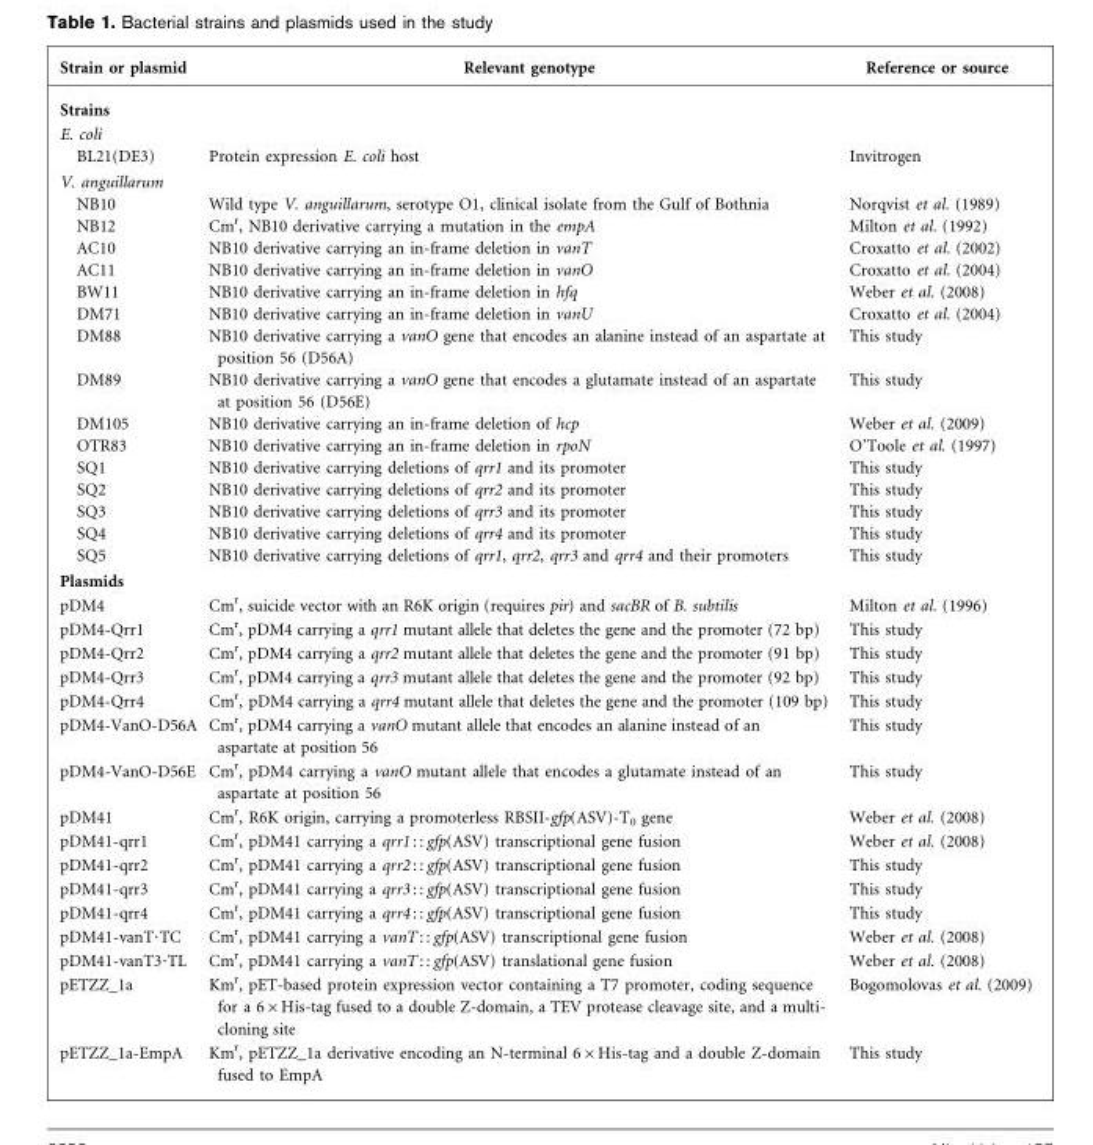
<table><thead><tr><td>Strain or plasmid</td><td>Relevant genotype</td><td>Reference or source</td></tr></thead><tbody><tr><td colspan="3">Strains</td></tr><tr><td colspan="3">E. coli</td></tr><tr><td>BL21(DE3)</td><td>Protein expression E. coli host</td><td>Invitrogen</td></tr><tr><td colspan="3">V. anguillarum</td></tr><tr><td>NB10</td><td>Wild type V. anguillarum, serotype O1, clinical isolate from the Gulf of Bothnia</td><td>Norqvist et al. (1989)</td></tr><tr><td>NB12</td><td>Cm<sup>r</sup>, NB10 derivative carrying a mutation in the empA</td><td>Milton et al. (1992)</td></tr><tr><td>AC10</td><td>NB10 derivative carrying an in-frame deletion in vanT</td><td>Croxatto et al. (2002)</td></tr><tr><td>AC11</td><td>NB10 derivative carrying an in-frame deletion in vanO</td><td>Croxatto et al. (2004)</td></tr><tr><td>BW11</td><td>NB10 derivative carrying an in-frame deletion in hfq</td><td>Weber et al. (2008)</td></tr><tr><td>DM71</td><td>NB10 derivative carrying an in-frame deletion in vanU</td><td>Croxatto et al. (2004)</td></tr><tr><td>DM88</td><td>NB10 derivative carrying a vanO gene that encodes an alanine instead of an aspartate at position 56 (D56A)</td><td>This study</td></tr><tr><td>DM89</td><td>NB10 derivative carrying a vanO gene that encodes a glutamate instead of an aspartate at position 56 (D56E)</td><td>This study</td></tr><tr><td>DM105</td><td>NB10 derivative carrying an in-frame deletion of hcp</td><td>Weber et al. (2009)</td></tr><tr><td>OTR83</td><td>NB10 derivative carrying an in-frame deletion in rpoN</td><td>O’Toole et al. (1997)</td></tr><tr><td>SQ1</td><td>NB10 derivative carrying deletions of qrr1 and its promoter</td><td>This study</td></tr><tr><td>SQ2</td><td>NB10 derivative carrying deletions of qrr2 and its promoter</td><td>This study</td></tr><tr><td>SQ3</td><td>NB10 derivative carrying deletions of qrr3 and its promoter</td><td>This study</td></tr><tr><td>SQ4</td><td>NB10 derivative carrying deletions of qrr4 and its promoter</td><td>This study</td></tr><tr><td>SQ5</td><td>NB10 derivative carrying deletions of qrr1, qrr2, qrr3 and qrr4 and their promoters</td><td>This study</td></tr><tr><td colspan="3">Plasmids</td></tr><tr><td>pDM4</td><td>Cm<sup>r</sup>, suicide vector with an R6K origin (requires pir) and sacBR of B. subtilis</td><td>Milton et al. (1996)</td></tr><tr><td>pDM4-Qrr1</td><td>Cm<sup>r</sup>, pDM4 carrying a qrr1 mutant allele that deletes the gene and the promoter (72 bp)</td><td>This study</td></tr><tr><td>pDM4-Qrr2</td><td>Cm<sup>r</sup>, pDM4 carrying a qrr2 mutant allele that deletes the gene and the promoter (91 bp)</td><td>This study</td></tr><tr><td>pDM4-Qrr3</td><td>Cm<sup>r</sup>, pDM4 carrying a qrr3 mutant allele that deletes the gene and the promoter (92 bp)</td><td>This study</td></tr><tr><td>pDM4-Qrr4</td><td>Cm<sup>r</sup>, pDM4 carrying a qrr4 mutant allele that deletes the gene and the promoter (109 bp)</td><td>This study</td></tr><tr><td>pDM4-VanO-D56A</td><td>Cm<sup>r</sup>, pDM4 carrying a vanO mutant allele that encodes an alanine instead of an aspartate at position 56</td><td>This study</td></tr><tr><td>pDM4-VanO-D56E</td><td>Cm<sup>r</sup>, pDM4 carrying a vanO mutant allele that encodes a glutamate instead of an aspartate at position 56</td><td>This study</td></tr><tr><td>pDM41</td><td>Cm<sup>r</sup>, R6K origin, carrying a promoterless RBSII-gfp(ASV)-T<sub>0</sub> gene</td><td>Weber et al. (2008)</td></tr><tr><td>pDM41-qrr1</td><td>Cm<sup>r</sup>, pDM41 carrying a qrr1 : : gfp(ASV) transcriptional gene fusion</td><td>Weber et al. (2008)</td></tr><tr><td>pDM41-qrr2</td><td>Cm<sup>r</sup>, pDM41 carrying a qrr2 : : gfp(ASV) transcriptional gene fusion</td><td>This study</td></tr><tr><td>pDM41-qrr3</td><td>Cm<sup>r</sup>, pDM41 carrying a qrr3 : : gfp(ASV) transcriptional gene fusion</td><td>This study</td></tr><tr><td>pDM41-qrr4</td><td>Cm<sup>r</sup>, pDM41 carrying a qrr4 : : gfp(ASV) transcriptional gene fusion</td><td>This study</td></tr><tr><td>pDM41-vanT·TC</td><td>Cm<sup>r</sup>, pDM41 carrying a vanT : : gfp(ASV) transcriptional gene fusion</td><td>Weber et al. (2008)</td></tr><tr><td>pDM41-vanT3·TL</td><td>Cm<sup>r</sup>, pDM41 carrying a vanT : : gfp(ASV) translational gene fusion</td><td>Weber et al. (2008)</td></tr><tr><td>pETZZ_1a</td><td>Km<sup>r</sup>, pET-based protein expression vector containing a T7 promoter, coding sequence for a 6×His-tag fused to a double Z-domain, a TEV protease cleavage site, and a multi- cloning site</td><td>Bogomolovas et al. (2009)</td></tr><tr><td>pETZZ_1a-EmpA</td><td>Km<sup>r</sup>, pETZZ_1a derivative encoding an N-terminal 6×His-tag and a double Z-domain fused to EmpA</td><td>This study</td></tr></tbody></table>